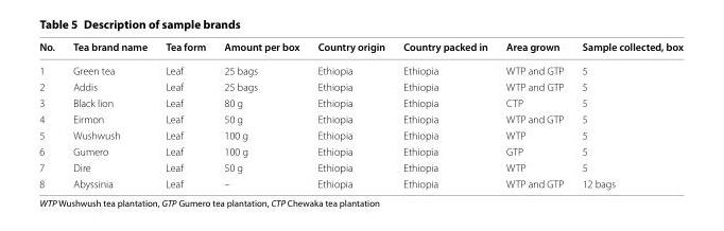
<table><thead><tr><td>No.</td><td>Tea brand name</td><td>Tea form</td><td>Amount per box</td><td>Country origin</td><td>Country packed in</td><td>Area grown</td><td>Sample collected, box</td></tr></thead><tbody><tr><td>1</td><td>Green tea</td><td>Leaf</td><td>25 bags</td><td>Ethiopia</td><td>Ethiopia</td><td>WTP and GTP</td><td>5</td></tr><tr><td>2</td><td>Addis</td><td>Leaf</td><td>25 bags</td><td>Ethiopia</td><td>Ethiopia</td><td>WTP and GTP</td><td>5</td></tr><tr><td>3</td><td>Black lion</td><td>Leaf</td><td>80 g</td><td>Ethiopia</td><td>Ethiopia</td><td>CTP</td><td>5</td></tr><tr><td>4</td><td>Eirmon</td><td>Leaf</td><td>50 g</td><td>Ethiopia</td><td>Ethiopia</td><td>WTP and GTP</td><td>5</td></tr><tr><td>5</td><td>Wushwush</td><td>Leaf</td><td>100 g</td><td>Ethiopia</td><td>Ethiopia</td><td>WTP</td><td>5</td></tr><tr><td>6</td><td>Gumero</td><td>Leaf</td><td>100 g</td><td>Ethiopia</td><td>Ethiopia</td><td>GTP</td><td>5</td></tr><tr><td>7</td><td>Dire</td><td>Leaf</td><td>50 g</td><td>Ethiopia</td><td>Ethiopia</td><td>WTP</td><td>5</td></tr><tr><td>8</td><td>Abyssinia</td><td>Leaf</td><td>–</td><td>Ethiopia</td><td>Ethiopia</td><td>WTP and GTP</td><td>12 bags</td></tr></tbody></table>